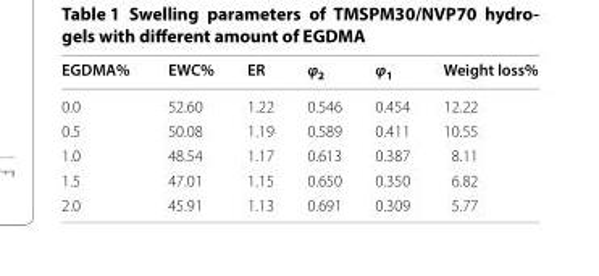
<table><thead><tr><td>EGDMA%</td><td>EWC%</td><td>ER</td><td>φ<sub>2</sub></td><td>φ<sub>1</sub></td><td>Weight loss%</td></tr></thead><tbody><tr><td>0.0</td><td>52.60</td><td>1.22</td><td>0.546</td><td>0.454</td><td>12.22</td></tr><tr><td>0.5</td><td>50.08</td><td>1.19</td><td>0.589</td><td>0.411</td><td>10.55</td></tr><tr><td>1.0</td><td>48.54</td><td>1.17</td><td>0.613</td><td>0.387</td><td>8.11</td></tr><tr><td>1.5</td><td>47.01</td><td>1.15</td><td>0.650</td><td>0.350</td><td>6.82</td></tr><tr><td>2.0</td><td>45.91</td><td>1.13</td><td>0.691</td><td>0.309</td><td>5.77</td></tr></tbody></table>